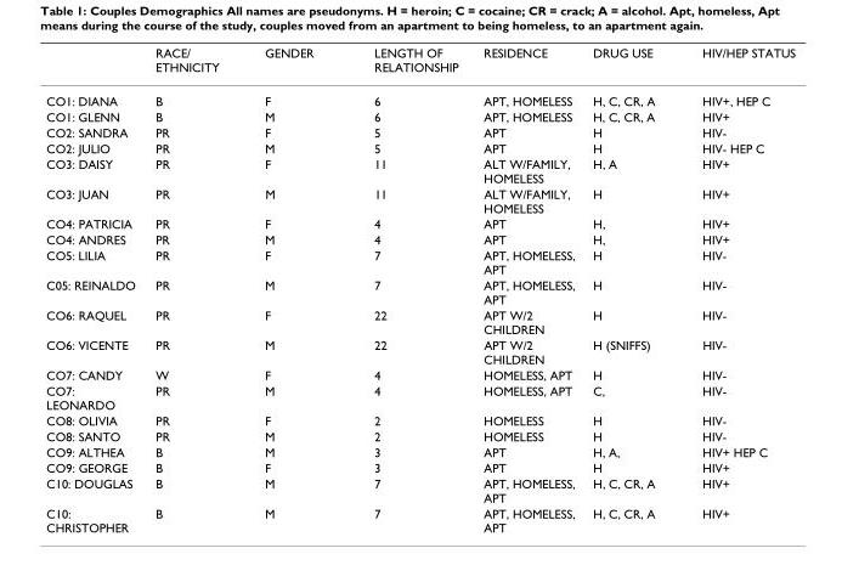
<table><thead><tr><td></td><td>RACE/ ETHNICITY</td><td>GENDER</td><td>LENGTH OF RELATIONSHIP</td><td>RESIDENCE</td><td>DRUG USE</td><td>HIV/HEP STATUS</td></tr></thead><tbody><tr><td>CO1: DIANA</td><td>B</td><td>F</td><td>6</td><td>APT, HOMELESS</td><td>H, C, CR, A</td><td>HIV+, HEP C</td></tr><tr><td>CO1: GLENN</td><td>B</td><td>M</td><td>6</td><td>APT, HOMELESS</td><td>H, C, CR, A</td><td>HIV+</td></tr><tr><td>CO2: SANDRA</td><td>PR</td><td>F</td><td>5</td><td>APT</td><td>H</td><td>HIV-</td></tr><tr><td>CO2: JULIO</td><td>PR</td><td>M</td><td>5</td><td>APT</td><td>H</td><td>HIV- HEP C</td></tr><tr><td>CO3: DAISY</td><td>PR</td><td>F</td><td>11</td><td>ALT W/FAMILY, HOMELESS</td><td>H, A</td><td>HIV+</td></tr><tr><td>CO3: JUAN</td><td>PR</td><td>M</td><td>11</td><td>ALT W/FAMILY, HOMELESS</td><td>H</td><td>HIV+</td></tr><tr><td>CO4: PATRICIA</td><td>PR</td><td>F</td><td>4</td><td>APT</td><td>H,</td><td>HIV+</td></tr><tr><td>CO4: ANDRES</td><td>PR</td><td>M</td><td>4</td><td>APT</td><td>H,</td><td>HIV+</td></tr><tr><td>CO5: LILIA</td><td>PR</td><td>F</td><td>7</td><td>APT, HOMELESS, APT</td><td>H</td><td>HIV-</td></tr><tr><td>C05: REINALDO</td><td>PR</td><td>M</td><td>7</td><td>APT, HOMELESS, APT</td><td>H</td><td>HIV-</td></tr><tr><td>CO6: RAQUEL</td><td>PR</td><td>F</td><td>22</td><td>APT W/2 CHILDREN</td><td>H</td><td>HIV-</td></tr><tr><td>CO6: VICENTE</td><td>PR</td><td>M</td><td>22</td><td>APT W/2 CHILDREN</td><td>H (SNIFFS)</td><td>HIV-</td></tr><tr><td>CO7: CANDY</td><td>W</td><td>F</td><td>4</td><td>HOMELESS, APT</td><td>H</td><td>HIV-</td></tr><tr><td>CO7: LEONARDO</td><td>PR</td><td>M</td><td>4</td><td>HOMELESS, APT</td><td>C,</td><td>HIV-</td></tr><tr><td>CO8: OLIVIA</td><td>PR</td><td>F</td><td>2</td><td>HOMELESS</td><td>H</td><td>HIV-</td></tr><tr><td>CO8: SANTO</td><td>PR</td><td>M</td><td>2</td><td>HOMELESS</td><td>H</td><td>HIV-</td></tr><tr><td>CO9: ALTHEA</td><td>B</td><td>M</td><td>3</td><td>APT</td><td>H, A,</td><td>HIV+ HEP C</td></tr><tr><td>CO9: GEORGE</td><td>B</td><td>F</td><td>3</td><td>APT</td><td>H</td><td>HIV+</td></tr><tr><td>C10: DOUGLAS</td><td>B</td><td>M</td><td>7</td><td>APT, HOMELESS, APT</td><td>H, C, CR, A</td><td>HIV+</td></tr><tr><td>C10: CHRISTOPHER</td><td>B</td><td>M</td><td>7</td><td>APT, HOMELESS, APT</td><td>H, C, CR, A</td><td>HIV+</td></tr></tbody></table>